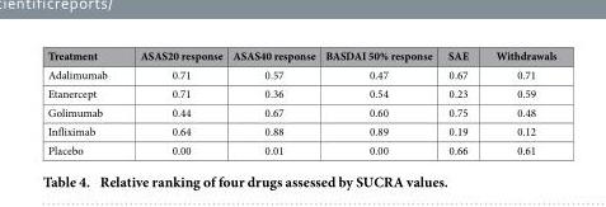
<table><thead><tr><td>Treatment</td><td>ASAS20 response</td><td>ASAS40 response</td><td>BASDAI 50% response</td><td>SAE</td><td>Withdrawals</td></tr></thead><tbody><tr><td>Adalimumab</td><td>0.71</td><td>0.57</td><td>0.47</td><td>0.67</td><td>0.71</td></tr><tr><td>Etanercept</td><td>0.71</td><td>0.36</td><td>0.54</td><td>0.23</td><td>0.59</td></tr><tr><td>Golimumab</td><td>0.44</td><td>0.67</td><td>0.60</td><td>0.75</td><td>0.48</td></tr><tr><td>Infliximab</td><td>0.64</td><td>0.88</td><td>0.89</td><td>0.19</td><td>0.12</td></tr><tr><td>Placebo</td><td>0.00</td><td>0.01</td><td>0.00</td><td>0.66</td><td>0.61</td></tr></tbody></table>